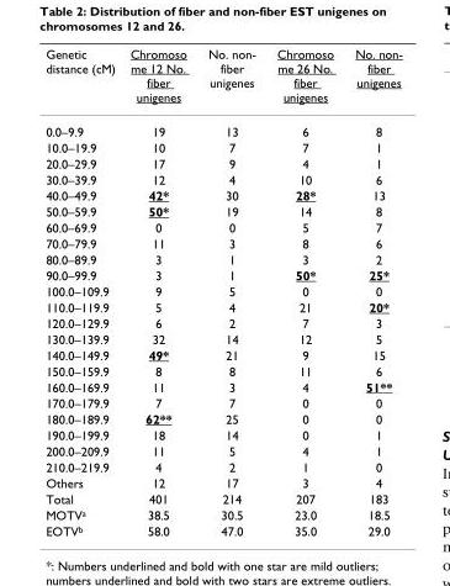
<table><thead><tr><td>Genetic distance (cM)</td><td>Chromoso me 12 No. fiber unigenes</td><td>No. non- fiber unigenes</td><td>Chromoso me 26 No. fiber unigenes</td><td>No. non- fiber unigenes</td></tr></thead><tbody><tr><td>0.0–9.9</td><td>19</td><td>13</td><td>6</td><td>8</td></tr><tr><td>10.0–19.9</td><td>10</td><td>7</td><td>7</td><td>1</td></tr><tr><td>20.0–29.9</td><td>17</td><td>9</td><td>4</td><td>1</td></tr><tr><td>30.0–39.9</td><td>12</td><td>4</td><td>10</td><td>6</td></tr><tr><td>40.0–49.9</td><td>42*</td><td>30</td><td>28*</td><td>13</td></tr><tr><td>50.0–59.9</td><td>50*</td><td>19</td><td>14</td><td>8</td></tr><tr><td>60.0–69.9</td><td>0</td><td>0</td><td>5</td><td>7</td></tr><tr><td>70.0–79.9</td><td>11</td><td>3</td><td>8</td><td>6</td></tr><tr><td>80.0–89.9</td><td>3</td><td>1</td><td>3</td><td>2</td></tr><tr><td>90.0–99.9</td><td>3</td><td>1</td><td>50*</td><td>25*</td></tr><tr><td>100.0–109.9</td><td>9</td><td>5</td><td>0</td><td>0</td></tr><tr><td>110.0–119.9</td><td>5</td><td>4</td><td>21</td><td>20*</td></tr><tr><td>120.0–129.9</td><td>6</td><td>2</td><td>7</td><td>3</td></tr><tr><td>130.0–139.9</td><td>32</td><td>14</td><td>12</td><td>5</td></tr><tr><td>140.0–149.9</td><td>49*</td><td>21</td><td>9</td><td>15</td></tr><tr><td>150.0–159.9</td><td>8</td><td>8</td><td>11</td><td>6</td></tr><tr><td>160.0–169.9</td><td>11</td><td>3</td><td>4</td><td>51**</td></tr><tr><td>170.0–179.9</td><td>7</td><td>7</td><td>0</td><td>0</td></tr><tr><td>180.0–189.9</td><td>62**</td><td>25</td><td>0</td><td>0</td></tr><tr><td>190.0–199.9</td><td>18</td><td>14</td><td>0</td><td>1</td></tr><tr><td>200.0–209.9</td><td>11</td><td>5</td><td>4</td><td>1</td></tr><tr><td>210.0–219.9</td><td>4</td><td>2</td><td>1</td><td>0</td></tr><tr><td>Others</td><td>12</td><td>17</td><td>3</td><td>4</td></tr><tr><td>Total</td><td>401</td><td>214</td><td>207</td><td>183</td></tr><tr><td>MOTV<sup>a</sup></td><td>38.5</td><td>30.5</td><td>23.0</td><td>18.5</td></tr><tr><td>EOTV<sup>b</sup></td><td>58.0</td><td>47.0</td><td>35.0</td><td>29.0</td></tr></tbody></table>